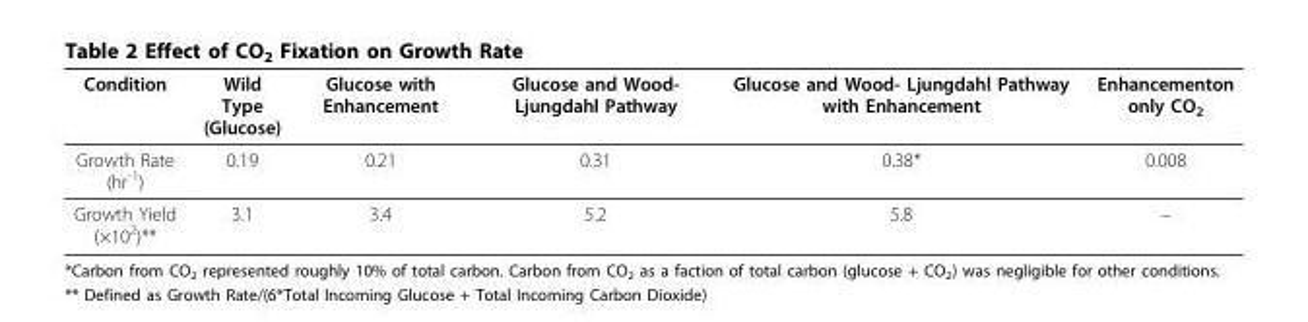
<table><thead><tr><td>Condition</td><td>Wild Type (Glucose)</td><td>Glucose with Enhancement</td><td>Glucose and Wood- Ljungdahl Pathway</td><td>Glucose and Wood- Ljungdahl Pathway with Enhancement</td><td>Enhancementon only CO<sub>2</sub></td></tr></thead><tbody><tr><td>Growth Rate (hr<sup>-1</sup>)</td><td>0.19</td><td>0.21</td><td>0.31</td><td>0.38*</td><td>0.008</td></tr><tr><td>Growth Yield (×10<sup>2</sup>)**</td><td>3.1</td><td>3.4</td><td>5.2</td><td>5.8</td><td>–</td></tr></tbody></table>